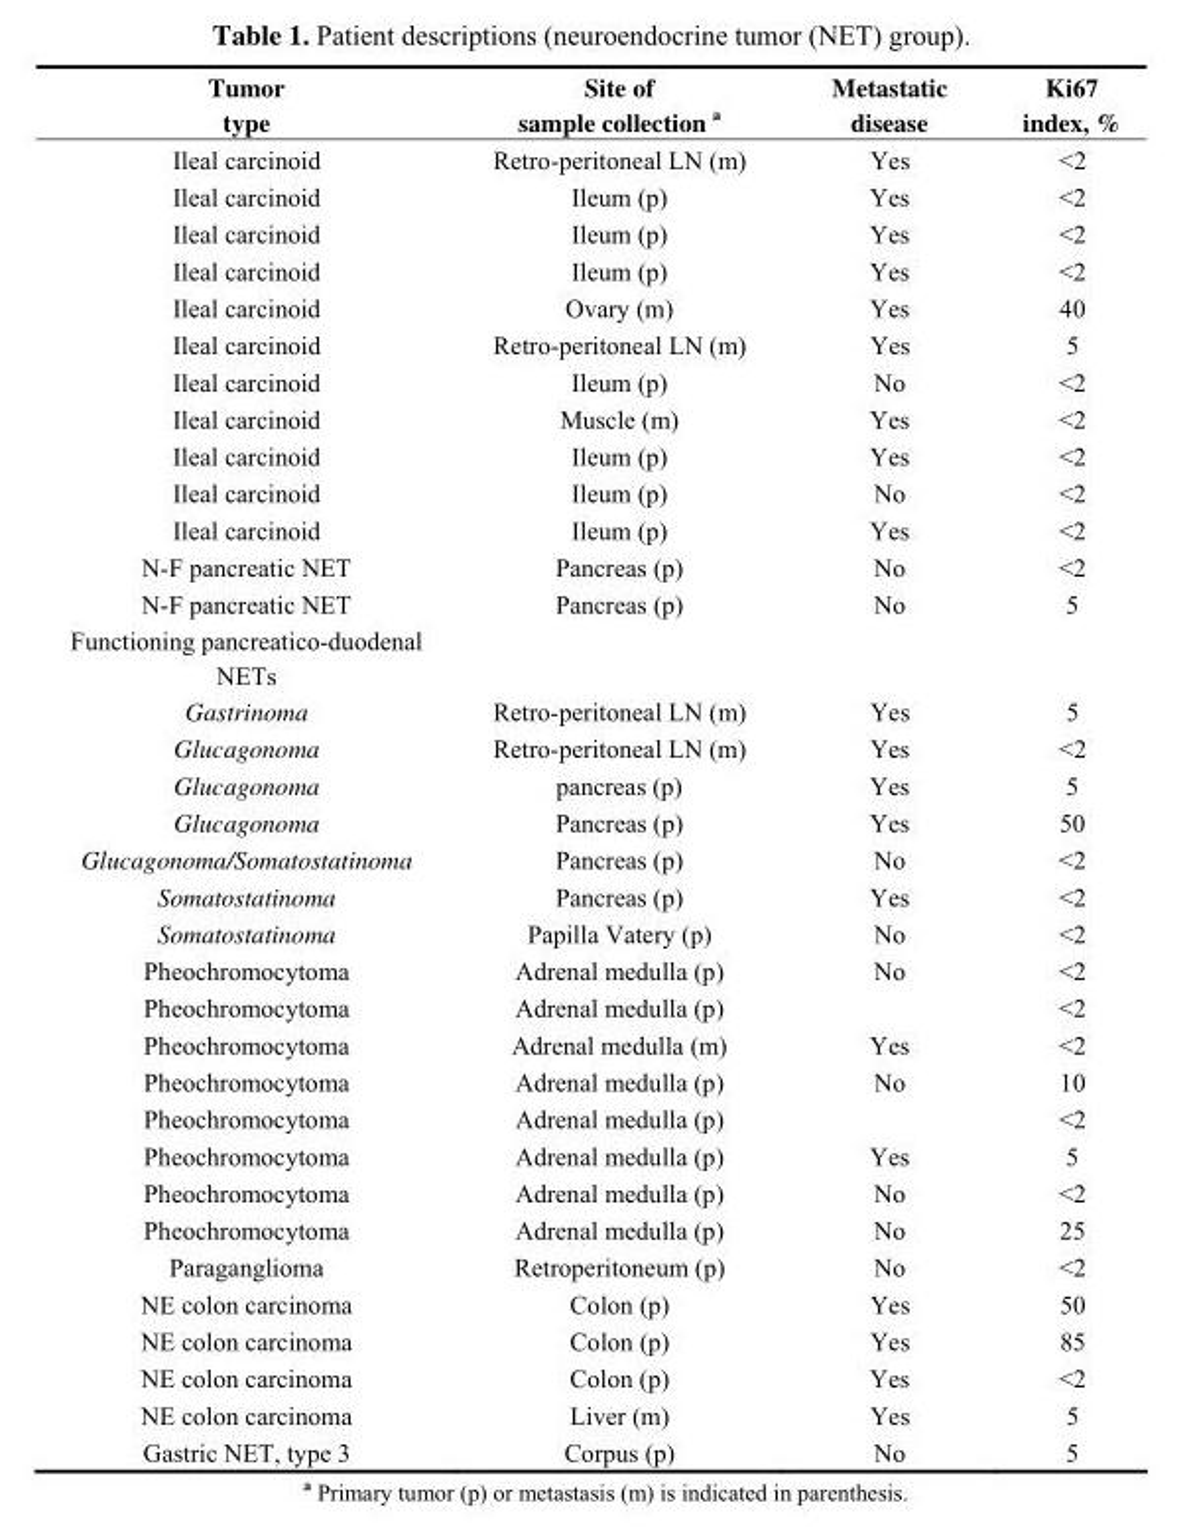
<table><thead><tr><td>Tumor type</td><td>Site of sample collection <sup>a</sup></td><td>Metastatic disease</td><td>Ki67 index, %</td></tr></thead><tbody><tr><td>Ileal carcinoid</td><td>Retro-peritoneal LN (m)</td><td>Yes</td><td>&lt;2</td></tr><tr><td>Ileal carcinoid</td><td>Ileum (p)</td><td>Yes</td><td>&lt;2</td></tr><tr><td>Ileal carcinoid</td><td>Ileum (p)</td><td>Yes</td><td>&lt;2</td></tr><tr><td>Ileal carcinoid</td><td>Ileum (p)</td><td>Yes</td><td>&lt;2</td></tr><tr><td>Ileal carcinoid</td><td>Ovary (m)</td><td>Yes</td><td>40</td></tr><tr><td>Ileal carcinoid</td><td>Retro-peritoneal LN (m)</td><td>Yes</td><td>5</td></tr><tr><td>Ileal carcinoid</td><td>Ileum (p)</td><td>No</td><td>&lt;2</td></tr><tr><td>Ileal carcinoid</td><td>Muscle (m)</td><td>Yes</td><td>&lt;2</td></tr><tr><td>Ileal carcinoid</td><td>Ileum (p)</td><td>Yes</td><td>&lt;2</td></tr><tr><td>Ileal carcinoid</td><td>Ileum (p)</td><td>No</td><td>&lt;2</td></tr><tr><td>Ileal carcinoid</td><td>Ileum (p)</td><td>Yes</td><td>&lt;2</td></tr><tr><td>N-F pancreatic NET</td><td>Pancreas (p)</td><td>No</td><td>&lt;2</td></tr><tr><td>N-F pancreatic NET</td><td>Pancreas (p)</td><td>No</td><td>5</td></tr><tr><td colspan="4">Functioning pancreatico-duodenal NETs</td></tr><tr><td>Gastrinoma</td><td>Retro-peritoneal LN (m)</td><td>Yes</td><td>5</td></tr><tr><td>Glucagonoma</td><td>Retro-peritoneal LN (m)</td><td>Yes</td><td>&lt;2</td></tr><tr><td>Glucagonoma</td><td>pancreas (p)</td><td>Yes</td><td>5</td></tr><tr><td>Glucagonoma</td><td>Pancreas (p)</td><td>Yes</td><td>50</td></tr><tr><td>Glucagonoma/Somatostatinoma</td><td>Pancreas (p)</td><td>No</td><td>&lt;2</td></tr><tr><td>Somatostatinoma</td><td>Pancreas (p)</td><td>Yes</td><td>&lt;2</td></tr><tr><td>Somatostatinoma</td><td>Papilla Vatery (p)</td><td>No</td><td>&lt;2</td></tr><tr><td>Pheochromocytoma</td><td>Adrenal medulla (p)</td><td>No</td><td>&lt;2</td></tr><tr><td>Pheochromocytoma</td><td>Adrenal medulla (p)</td><td></td><td>&lt;2</td></tr><tr><td>Pheochromocytoma</td><td>Adrenal medulla (m)</td><td>Yes</td><td>&lt;2</td></tr><tr><td>Pheochromocytoma</td><td>Adrenal medulla (p)</td><td>No</td><td>10</td></tr><tr><td>Pheochromocytoma</td><td>Adrenal medulla (p)</td><td></td><td>&lt;2</td></tr><tr><td>Pheochromocytoma</td><td>Adrenal medulla (p)</td><td>Yes</td><td>5</td></tr><tr><td>Pheochromocytoma</td><td>Adrenal medulla (p)</td><td>No</td><td>&lt;2</td></tr><tr><td>Pheochromocytoma</td><td>Adrenal medulla (p)</td><td>No</td><td>25</td></tr><tr><td>Paraganglioma</td><td>Retroperitoneum (p)</td><td>No</td><td>&lt;2</td></tr><tr><td>NE colon carcinoma</td><td>Colon (p)</td><td>Yes</td><td>50</td></tr><tr><td>NE colon carcinoma</td><td>Colon (p)</td><td>Yes</td><td>85</td></tr><tr><td>NE colon carcinoma</td><td>Colon (p)</td><td>Yes</td><td>&lt;2</td></tr><tr><td>NE colon carcinoma</td><td>Liver (m)</td><td>Yes</td><td>5</td></tr><tr><td>Gastric NET, type 3</td><td>Corpus (p)</td><td>No</td><td>5</td></tr></tbody></table>